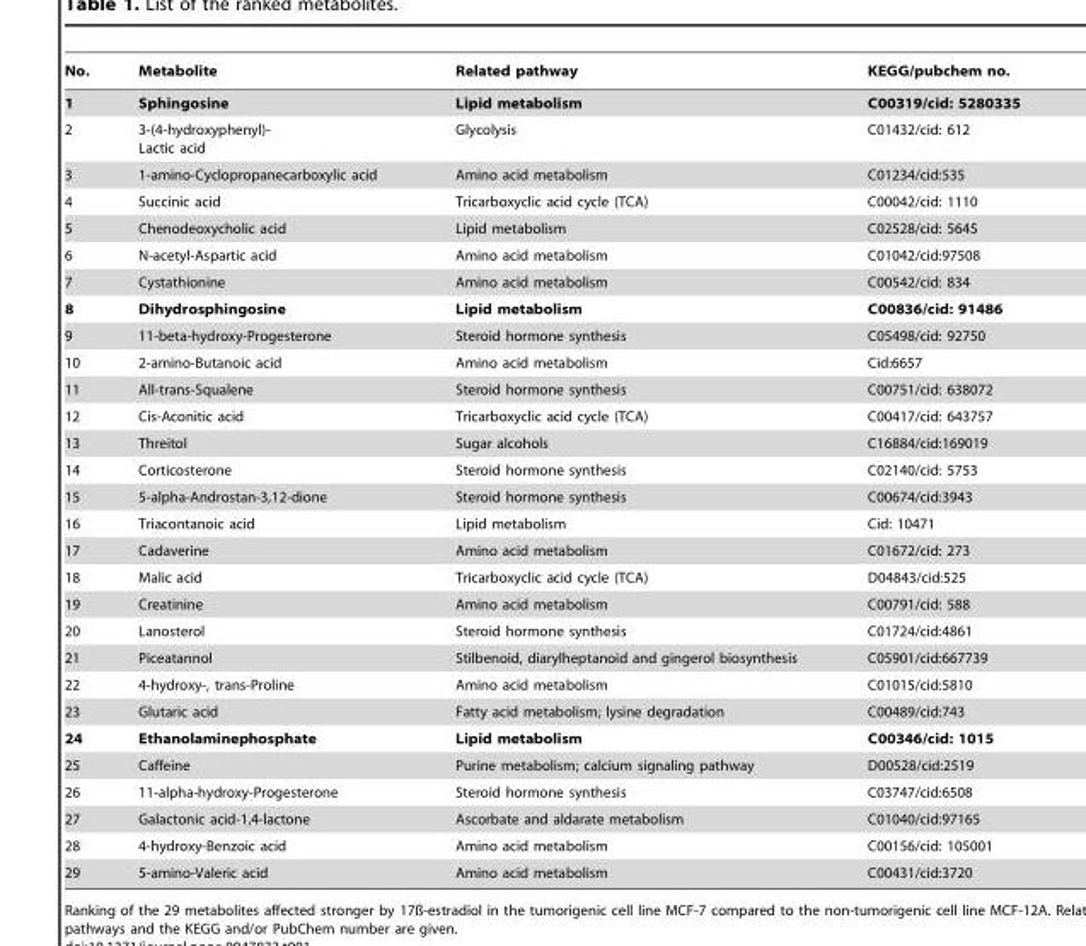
<table><thead><tr><td>No.</td><td>Metabolite</td><td>Related pathway</td><td>KEGG/pubchem no.</td></tr></thead><tbody><tr><td>1</td><td>Sphingosine</td><td>Lipid metabolism</td><td>C00319/cid: 5280335</td></tr><tr><td>2</td><td>3-(4-hydroxyphenyl)- Lactic acid</td><td>Glycolysis</td><td>C01432/cid: 612</td></tr><tr><td>3</td><td>1-amino-Cyclopropanecarboxylic acid</td><td>Amino acid metabolism</td><td>C01234/cid:535</td></tr><tr><td>4</td><td>Succinic acid</td><td>Tricarboxyclic acid cycle (TCA)</td><td>C00042/cid: 1110</td></tr><tr><td>5</td><td>Chenodeoxycholic acid</td><td>Lipid metabolism</td><td>C02528/cid: 5645</td></tr><tr><td>6</td><td>N-acetyl-Aspartic acid</td><td>Amino acid metabolism</td><td>C01042/cid:97508</td></tr><tr><td>7</td><td>Cystathionine</td><td>Amino acid metabolism</td><td>C00542/cid: 834</td></tr><tr><td>8</td><td>Dihydrosphingosine</td><td>Lipid metabolism</td><td>C00836/cid: 91486</td></tr><tr><td>9</td><td>11-beta-hydroxy-Progesterone</td><td>Steroid hormone synthesis</td><td>C05498/cid: 92750</td></tr><tr><td>10</td><td>2-amino-Butanoic acid</td><td>Amino acid metabolism</td><td>Cid:6657</td></tr><tr><td>11</td><td>All-trans-Squalene</td><td>Steroid hormone synthesis</td><td>C00751/cid: 638072</td></tr><tr><td>12</td><td>Cis-Aconitic acid</td><td>Tricarboxyclic acid cycle (TCA)</td><td>C00417/cid: 643757</td></tr><tr><td>13</td><td>Threitol</td><td>Sugar alcohols</td><td>C16884/cid:169019</td></tr><tr><td>14</td><td>Corticosterone</td><td>Steroid hormone synthesis</td><td>C02140/cid: 5753</td></tr><tr><td>15</td><td>5-alpha-Androstan-3,12-dione</td><td>Steroid hormone synthesis</td><td>C00674/cid:3943</td></tr><tr><td>16</td><td>Triacontanoic acid</td><td>Lipid metabolism</td><td>Cid: 10471</td></tr><tr><td>17</td><td>Cadaverine</td><td>Amino acid metabolism</td><td>C01672/cid: 273</td></tr><tr><td>18</td><td>Malic acid</td><td>Tricarboxyclic acid cycle (TCA)</td><td>D04843/cid:525</td></tr><tr><td>19</td><td>Creatinine</td><td>Amino acid metabolism</td><td>C00791/cid: 588</td></tr><tr><td>20</td><td>Lanosterol</td><td>Steroid hormone synthesis</td><td>C01724/cid:4861</td></tr><tr><td>21</td><td>Piceatannol</td><td>Stilbenoid, diarylheptanoid and gingerol biosynthesis</td><td>C05901/cid:667739</td></tr><tr><td>22</td><td>4-hydroxy-, trans-Proline</td><td>Amino acid metabolism</td><td>C01015/cid:5810</td></tr><tr><td>23</td><td>Glutaric acid</td><td>Fatty acid metabolism; lysine degradation</td><td>C00489/cid:743</td></tr><tr><td>24</td><td>Ethanolaminephosphate</td><td>Lipid metabolism</td><td>C00346/cid: 1015</td></tr><tr><td>25</td><td>Caffeine</td><td>Purine metabolism; calcium signaling pathway</td><td>D00528/cid:2519</td></tr><tr><td>26</td><td>11-alpha-hydroxy-Progesterone</td><td>Steroid hormone synthesis</td><td>C03747/cid:6508</td></tr><tr><td>27</td><td>Galactonic acid-1,4-lactone</td><td>Ascorbate and aldarate metabolism</td><td>C01040/cid:97165</td></tr><tr><td>28</td><td>4-hydroxy-Benzoic acid</td><td>Amino acid metabolism</td><td>C00156/cid: 105001</td></tr><tr><td>29</td><td>5-amino-Valeric acid</td><td>Amino acid metabolism</td><td>C00431/cid:3720</td></tr></tbody></table>